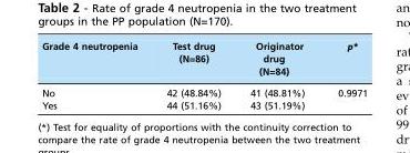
<table><thead><tr><td>Grade 4 neutropenia</td><td>Test drug (N=86)</td><td>Originator drug (N=84)</td><td>p*</td></tr></thead><tbody><tr><td>No</td><td>42 (48.84%)</td><td>41 (48.81%)</td><td>0.9971</td></tr><tr><td>Yes</td><td>44 (51.16%)</td><td>43 (51.19%)</td><td></td></tr></tbody></table>